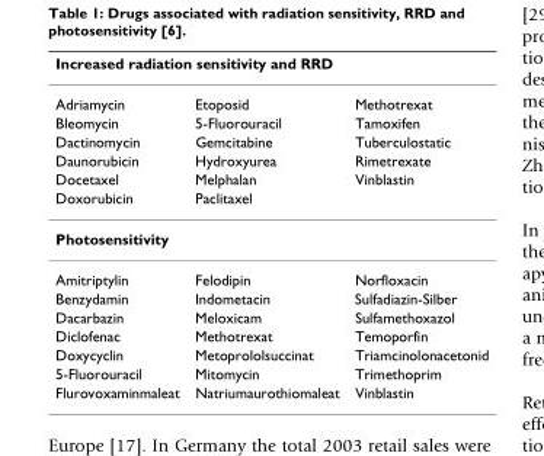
<table><thead><tr><td colspan="3">Increased radiation sensitivity and RRD</td></tr><tr><td>Adriamycin</td><td>Etoposid</td><td>Methotrexat</td></tr></thead><tbody><tr><td>Bleomycin</td><td>5-Fluorouracil</td><td>Tamoxifen</td></tr><tr><td>Dactinomycin</td><td>Gemcitabine</td><td>Tuberculostatic</td></tr><tr><td>Daunorubicin</td><td>Hydroxyurea</td><td>Rimetrexate</td></tr><tr><td>Docetaxel</td><td>Melphalan</td><td>Vinblastin</td></tr><tr><td>Doxorubicin</td><td>Paclitaxel</td><td></td></tr><tr><td colspan="3">Photosensitivity</td></tr><tr><td>Amitriptylin</td><td>Felodipin</td><td>Norfloxacin</td></tr><tr><td>Benzydamin</td><td>Indometacin</td><td>Sulfadiazin-Silber</td></tr><tr><td>Dacarbazin</td><td>Meloxicam</td><td>Sulfamethoxazol</td></tr><tr><td>Diclofenac</td><td>Methotrexat</td><td>Temoporfin</td></tr><tr><td>Doxycyclin</td><td>Metoprololsuccinat</td><td>Triamcinolonacetonid</td></tr><tr><td>5-Fluorouracil</td><td>Mitomycin</td><td>Trimethoprim</td></tr><tr><td>Flurovoxaminmaleat</td><td>Natriumaurothiomaleat</td><td>Vinblastin</td></tr></tbody></table>